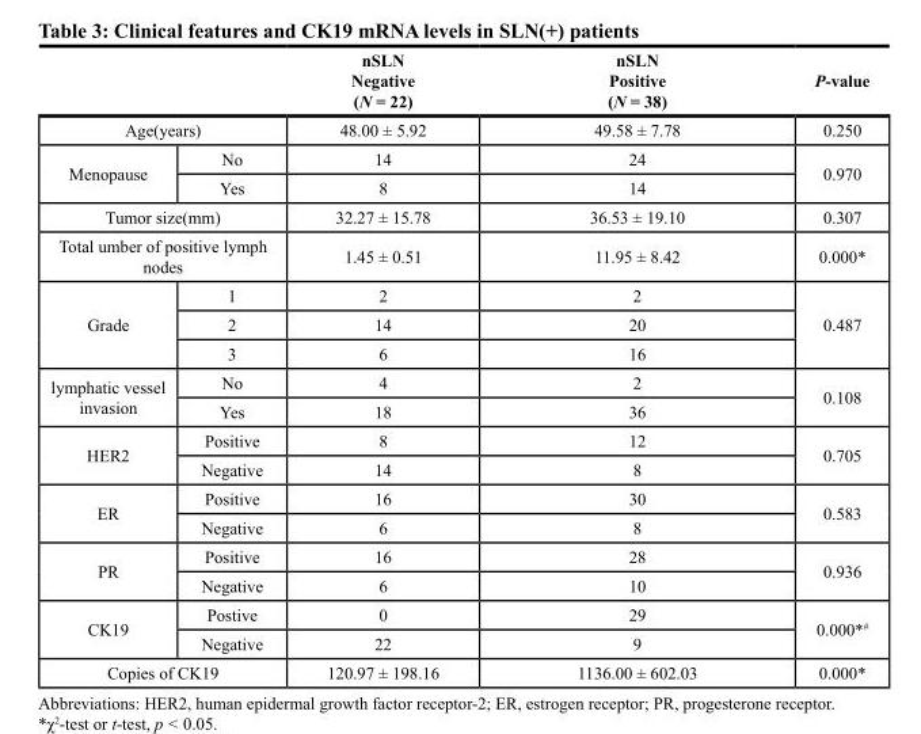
<table><thead><tr><td></td><td></td><td>nSLN Negative (N = 22)</td><td>nSLN Positive (N = 38)</td><td>P-value</td></tr></thead><tbody><tr><td colspan="2">Age(years)</td><td>48.00 ± 5.92</td><td>49.58 ± 7.78</td><td>0.250</td></tr><tr><td rowspan="2">Menopause</td><td>No</td><td>14</td><td>24</td><td rowspan="2">0.970</td></tr><tr><td>Yes</td><td>8</td><td>14</td></tr><tr><td colspan="2">Tumor size(mm)</td><td>32.27 ± 15.78</td><td>36.53 ± 19.10</td><td>0.307</td></tr><tr><td colspan="2">Total umber of positive lymph nodes</td><td>1.45 ± 0.51</td><td>11.95 ± 8.42</td><td>0.000*</td></tr><tr><td rowspan="3">Grade</td><td>1</td><td>2</td><td>2</td><td rowspan="3">0.487</td></tr><tr><td>2</td><td>14</td><td>20</td></tr><tr><td>3</td><td>6</td><td>16</td></tr><tr><td rowspan="2">lymphatic vessel invasion</td><td>No</td><td>4</td><td>2</td><td rowspan="2">0.108</td></tr><tr><td>Yes</td><td>18</td><td>36</td></tr><tr><td rowspan="2">HER2</td><td>Positive</td><td>8</td><td>12</td><td rowspan="2">0.705</td></tr><tr><td>Negative</td><td>14</td><td>8</td></tr><tr><td rowspan="2">ER</td><td>Positive</td><td>16</td><td>30</td><td rowspan="2">0.583</td></tr><tr><td>Negative</td><td>6</td><td>8</td></tr><tr><td rowspan="2">PR</td><td>Positive</td><td>16</td><td>28</td><td rowspan="2">0.936</td></tr><tr><td>Negative</td><td>6</td><td>10</td></tr><tr><td rowspan="2">CK19</td><td>Postive</td><td>0</td><td>29</td><td rowspan="2">0.000*#</td></tr><tr><td>Negative</td><td>22</td><td>9</td></tr><tr><td colspan="2">Copies of CK19</td><td>120.97 ± 198.16</td><td>1136.00 ± 602.03</td><td>0.000*</td></tr></tbody></table>